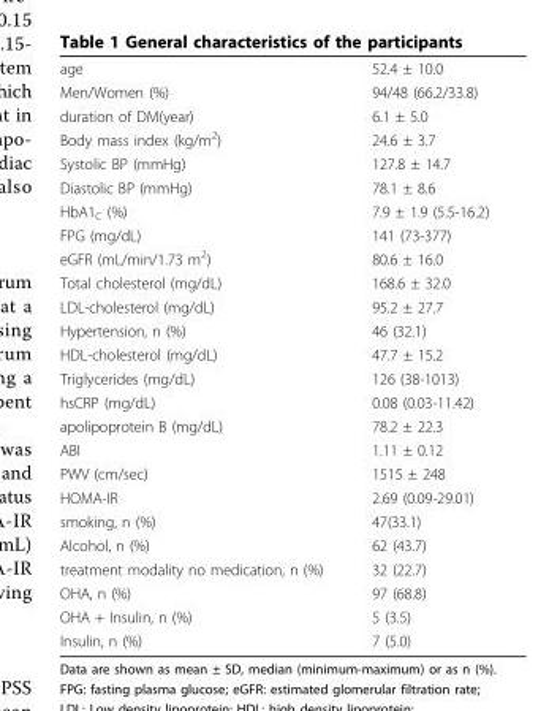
<table><tbody><tr><td>age</td><td>52.4 ± 10.0</td></tr><tr><td>Men/Women (%)</td><td>94/48 (66.2/33.8)</td></tr><tr><td>duration of DM(year)</td><td>6.1 ± 5.0</td></tr><tr><td>Body mass index (kg/m<sup>2</sup>)</td><td>24.6 ± 3.7</td></tr><tr><td>Systolic BP (mmHg)</td><td>127.8 ± 14.7</td></tr><tr><td>Diastolic BP (mmHg)</td><td>78.1 ± 8.6</td></tr><tr><td>HbA1<sub>C</sub> (%)</td><td>7.9 ± 1.9 (5.5-16.2)</td></tr><tr><td>FPG (mg/dL)</td><td>141 (73-377)</td></tr><tr><td>eGFR (mL/min/1.73 m<sup>2</sup>)</td><td>80.6 ± 16.0</td></tr><tr><td>Total cholesterol (mg/dL)</td><td>168.6 ± 32.0</td></tr><tr><td>LDL-cholesterol (mg/dL)</td><td>95.2 ± 27.7</td></tr><tr><td>Hypertension, n (%)</td><td>46 (32.1)</td></tr><tr><td>HDL-cholesterol (mg/dL)</td><td>47.7 ± 15.2</td></tr><tr><td>Triglycerides (mg/dL)</td><td>126 (38-1013)</td></tr><tr><td>hsCRP (mg/dL)</td><td>0.08 (0.03-11.42)</td></tr><tr><td>apolipoprotein B (mg/dL)</td><td>78.2 ± 22.3</td></tr><tr><td>ABI</td><td>1.11 ± 0.12</td></tr><tr><td>PWV (cm/sec)</td><td>1515 ± 248</td></tr><tr><td>HOMA-IR</td><td>2.69 (0.09-29.01)</td></tr><tr><td>smoking, n (%)</td><td>47(33.1)</td></tr><tr><td>Alcohol, n (%)</td><td>62 (43.7)</td></tr><tr><td>treatment modality no medication, n (%)</td><td>32 (22.7)</td></tr><tr><td>OHA, n (%)</td><td>97 (68.8)</td></tr><tr><td>OHA + Insulin, n (%)</td><td>5 (3.5)</td></tr><tr><td>Insulin, n (%)</td><td>7 (5.0)</td></tr></tbody></table>